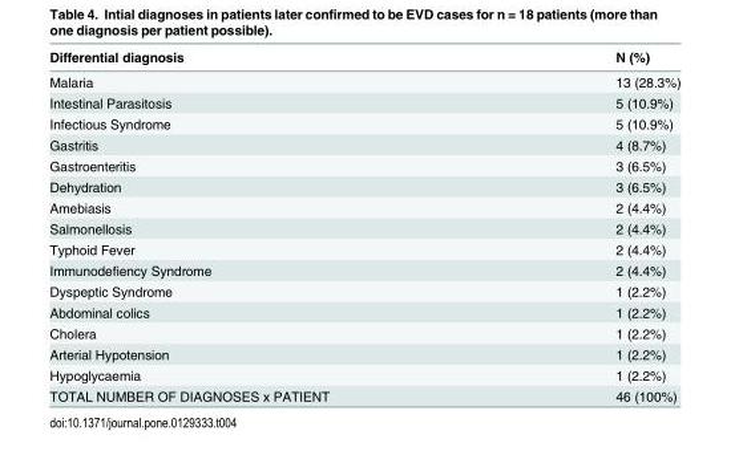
<table><thead><tr><td>Differential diagnosis</td><td>N (%)</td></tr></thead><tbody><tr><td>Malaria</td><td>13 (28.3%)</td></tr><tr><td>Intestinal Parasitosis</td><td>5 (10.9%)</td></tr><tr><td>Infectious Syndrome</td><td>5 (10.9%)</td></tr><tr><td>Gastritis</td><td>4 (8.7%)</td></tr><tr><td>Gastroenteritis</td><td>3 (6.5%)</td></tr><tr><td>Dehydration</td><td>3 (6.5%)</td></tr><tr><td>Amebiasis</td><td>2 (4.4%)</td></tr><tr><td>Salmonellosis</td><td>2 (4.4%)</td></tr><tr><td>Typhoid Fever</td><td>2 (4.4%)</td></tr><tr><td>Immunodefiency Syndrome</td><td>2 (4.4%)</td></tr><tr><td>Dyspeptic Syndrome</td><td>1 (2.2%)</td></tr><tr><td>Abdominal colics</td><td>1 (2.2%)</td></tr><tr><td>Cholera</td><td>1 (2.2%)</td></tr><tr><td>Arterial Hypotension</td><td>1 (2.2%)</td></tr><tr><td>Hypoglycaemia</td><td>1 (2.2%)</td></tr><tr><td>TOTAL NUMBER OF DIAGNOSES x PATIENT</td><td>46 (100%)</td></tr></tbody></table>